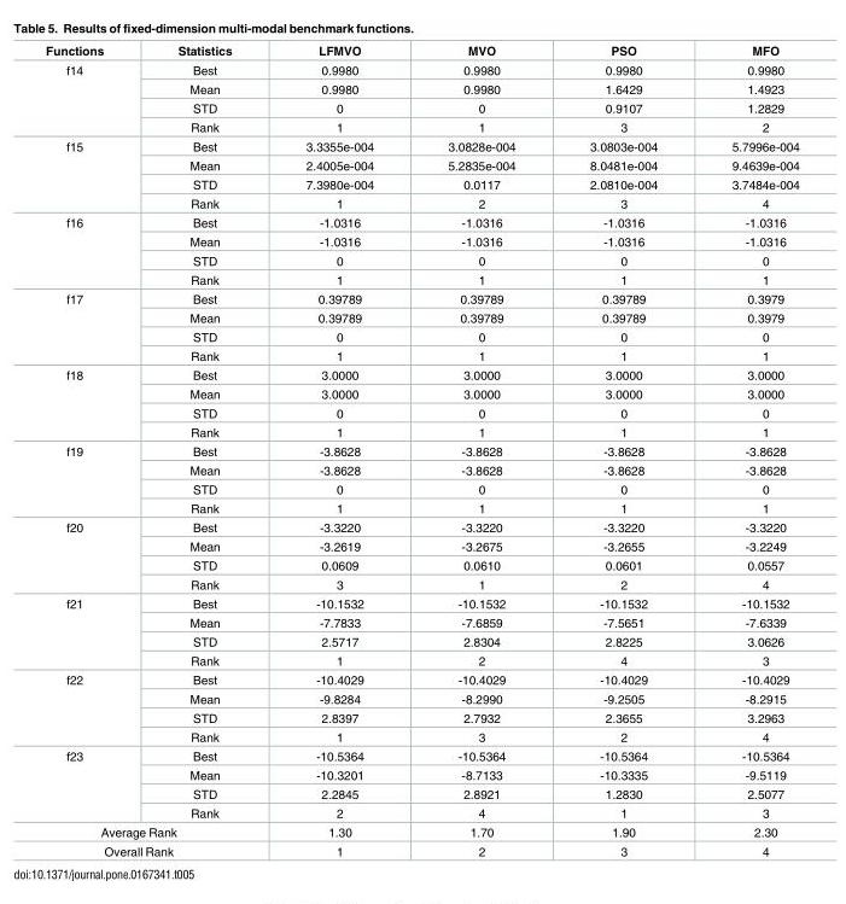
<table><thead><tr><td>Functions</td><td>Statistics</td><td>LFMVO</td><td>MVO</td><td>PSO</td><td>MFO</td></tr></thead><tbody><tr><td rowspan="4">f14</td><td>Best</td><td>0.9980</td><td>0.9980</td><td>0.9980</td><td>0.9980</td></tr><tr><td>Mean</td><td>0.9980</td><td>0.9980</td><td>1.6429</td><td>1.4923</td></tr><tr><td>STD</td><td>0</td><td>0</td><td>0.9107</td><td>1.2829</td></tr><tr><td>Rank</td><td>1</td><td>1</td><td>3</td><td>2</td></tr><tr><td rowspan="4">f15</td><td>Best</td><td>3.3355e-004</td><td>3.0828e-004</td><td>3.0803e-004</td><td>5.7996e-004</td></tr><tr><td>Mean</td><td>2.4005e-004</td><td>5.2835e-004</td><td>8.0481e-004</td><td>9.4639e-004</td></tr><tr><td>STD</td><td>7.3980e-004</td><td>0.0117</td><td>2.0810e-004</td><td>3.7484e-004</td></tr><tr><td>Rank</td><td>1</td><td>2</td><td>3</td><td>4</td></tr><tr><td rowspan="4">f16</td><td>Best</td><td>-1.0316</td><td>-1.0316</td><td>-1.0316</td><td>-1.0316</td></tr><tr><td>Mean</td><td>-1.0316</td><td>-1.0316</td><td>-1.0316</td><td>-1.0316</td></tr><tr><td>STD</td><td>0</td><td>0</td><td>0</td><td>0</td></tr><tr><td>Rank</td><td>1</td><td>1</td><td>1</td><td>1</td></tr><tr><td rowspan="4">f17</td><td>Best</td><td>0.39789</td><td>0.39789</td><td>0.39789</td><td>0.3979</td></tr><tr><td>Mean</td><td>0.39789</td><td>0.39789</td><td>0.39789</td><td>0.3979</td></tr><tr><td>STD</td><td>0</td><td>0</td><td>0</td><td>0</td></tr><tr><td>Rank</td><td>1</td><td>1</td><td>1</td><td>1</td></tr><tr><td rowspan="4">f18</td><td>Best</td><td>3.0000</td><td>3.0000</td><td>3.0000</td><td>3.0000</td></tr><tr><td>Mean</td><td>3.0000</td><td>3.0000</td><td>3.0000</td><td>3.0000</td></tr><tr><td>STD</td><td>0</td><td>0</td><td>0</td><td>0</td></tr><tr><td>Rank</td><td>1</td><td>1</td><td>1</td><td>1</td></tr><tr><td rowspan="4">f19</td><td>Best</td><td>-3.8628</td><td>-3.8628</td><td>-3.8628</td><td>-3.8628</td></tr><tr><td>Mean</td><td>-3.8628</td><td>-3.8628</td><td>-3.8628</td><td>-3.8628</td></tr><tr><td>STD</td><td>0</td><td>0</td><td>0</td><td>0</td></tr><tr><td>Rank</td><td>1</td><td>1</td><td>1</td><td>1</td></tr><tr><td rowspan="4">f20</td><td>Best</td><td>-3.3220</td><td>-3.3220</td><td>-3.3220</td><td>-3.3220</td></tr><tr><td>Mean</td><td>-3.2619</td><td>-3.2675</td><td>-3.2655</td><td>-3.2249</td></tr><tr><td>STD</td><td>0.0609</td><td>0.0610</td><td>0.0601</td><td>0.0557</td></tr><tr><td>Rank</td><td>3</td><td>1</td><td>2</td><td>4</td></tr><tr><td rowspan="4">f21</td><td>Best</td><td>-10.1532</td><td>-10.1532</td><td>-10.1532</td><td>-10.1532</td></tr><tr><td>Mean</td><td>-7.7833</td><td>-7.6859</td><td>-7.5651</td><td>-7.6339</td></tr><tr><td>STD</td><td>2.5717</td><td>2.8304</td><td>2.8225</td><td>3.0626</td></tr><tr><td>Rank</td><td>1</td><td>2</td><td>4</td><td>3</td></tr><tr><td rowspan="4">f22</td><td>Best</td><td>-10.4029</td><td>-10.4029</td><td>-10.4029</td><td>-10.4029</td></tr><tr><td>Mean</td><td>-9.8284</td><td>-8.2990</td><td>-9.2505</td><td>-8.2915</td></tr><tr><td>STD</td><td>2.8397</td><td>2.7932</td><td>2.3655</td><td>3.2963</td></tr><tr><td>Rank</td><td>1</td><td>3</td><td>2</td><td>4</td></tr><tr><td rowspan="4">f23</td><td>Best</td><td>-10.5364</td><td>-10.5364</td><td>-10.5364</td><td>-10.5364</td></tr><tr><td>Mean</td><td>-10.3201</td><td>-8.7133</td><td>-10.3335</td><td>-9.5119</td></tr><tr><td>STD</td><td>2.2845</td><td>2.8921</td><td>1.2830</td><td>2.5077</td></tr><tr><td>Rank</td><td>2</td><td>4</td><td>1</td><td>3</td></tr><tr><td colspan="2">Average Rank</td><td>1.30</td><td>1.70</td><td>1.90</td><td>2.30</td></tr><tr><td colspan="2">Overall Rank</td><td>1</td><td>2</td><td>3</td><td>4</td></tr></tbody></table>